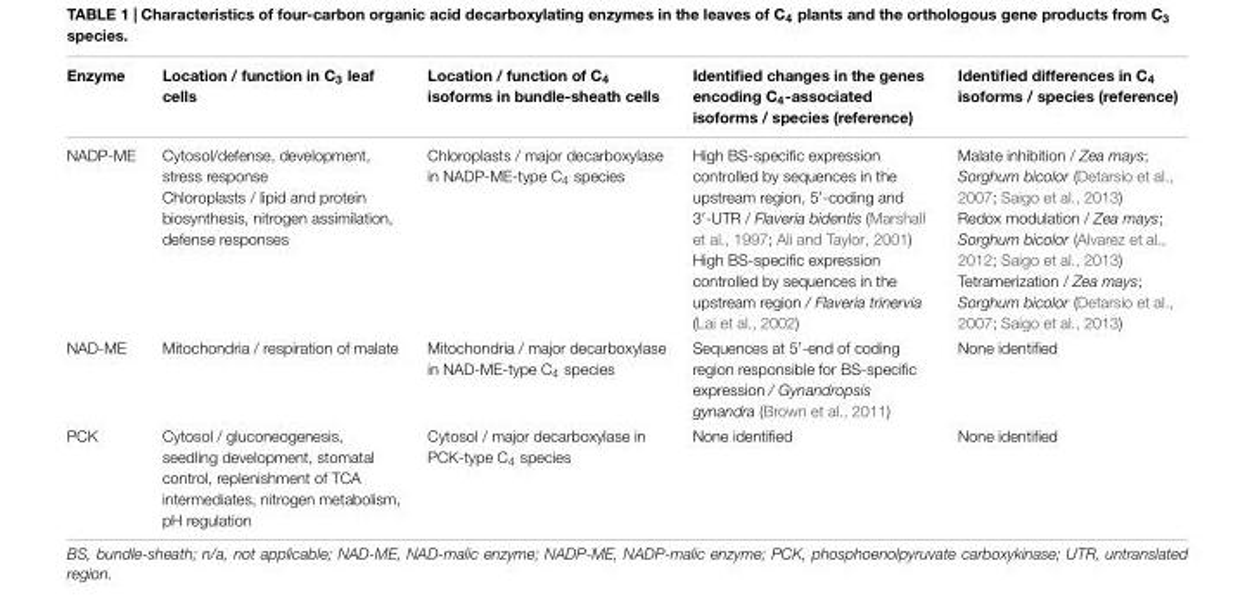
<table><thead><tr><td>Enzyme</td><td>Location / function in C<sub>3</sub> leaf cells</td><td>Location / function of C<sub>4</sub> isoforms in bundle-sheath cells</td><td>Identified changes in the genes encoding C<sub>4</sub>-associated isoforms / species (reference)</td><td>Identified differences in C<sub>4</sub> isoforms / species (reference)</td></tr></thead><tbody><tr><td>NADP-ME</td><td>Cytosol/defense, development, stress response Chloroplasts / lipid and protein biosynthesis, nitrogen assimilation, defense responses</td><td>Chloroplasts / major decarboxylase in NADP-ME-type C<sub>4</sub> species</td><td>High BS-specific expression controlled by sequences in the upstream region, 5′-coding and 3′-UTR / Flaveria bidentis (Marshall et al., 1997; Ali and Taylor, 2001) High BS-specific expression controlled by sequences in the upstream region / Flaveria trinervia (Lai et al., 2002)</td><td>Malate inhibition / Zea mays; Sorghum bicolor (Detarsio et al., 2007; Saigo et al., 2013) Redox modulation / Zea mays; Sorghum bicolor (Alvarez et al., 2012; Saigo et al., 2013) Tetramerization / Zea mays; Sorghum bicolor (Detarsio et al., 2007; Saigo et al., 2013)</td></tr><tr><td>NAD-ME</td><td>Mitochondria / respiration of malate</td><td>Mitochondria / major decarboxylase in NAD-ME-type C<sub>4</sub> species</td><td>Sequences at 5′-end of coding region responsible for BS-specific expression / Gynandropsis gynandra (Brown et al., 2011)</td><td>None identified</td></tr><tr><td>PCK</td><td>Cytosol / gluconeogenesis, seedling development, stomatal control, replenishment of TCA intermediates, nitrogen metabolism, pH regulation</td><td>Cytosol / major decarboxylase in PCK-type C<sub>4</sub> species</td><td>None identified</td><td>None identified</td></tr></tbody></table>